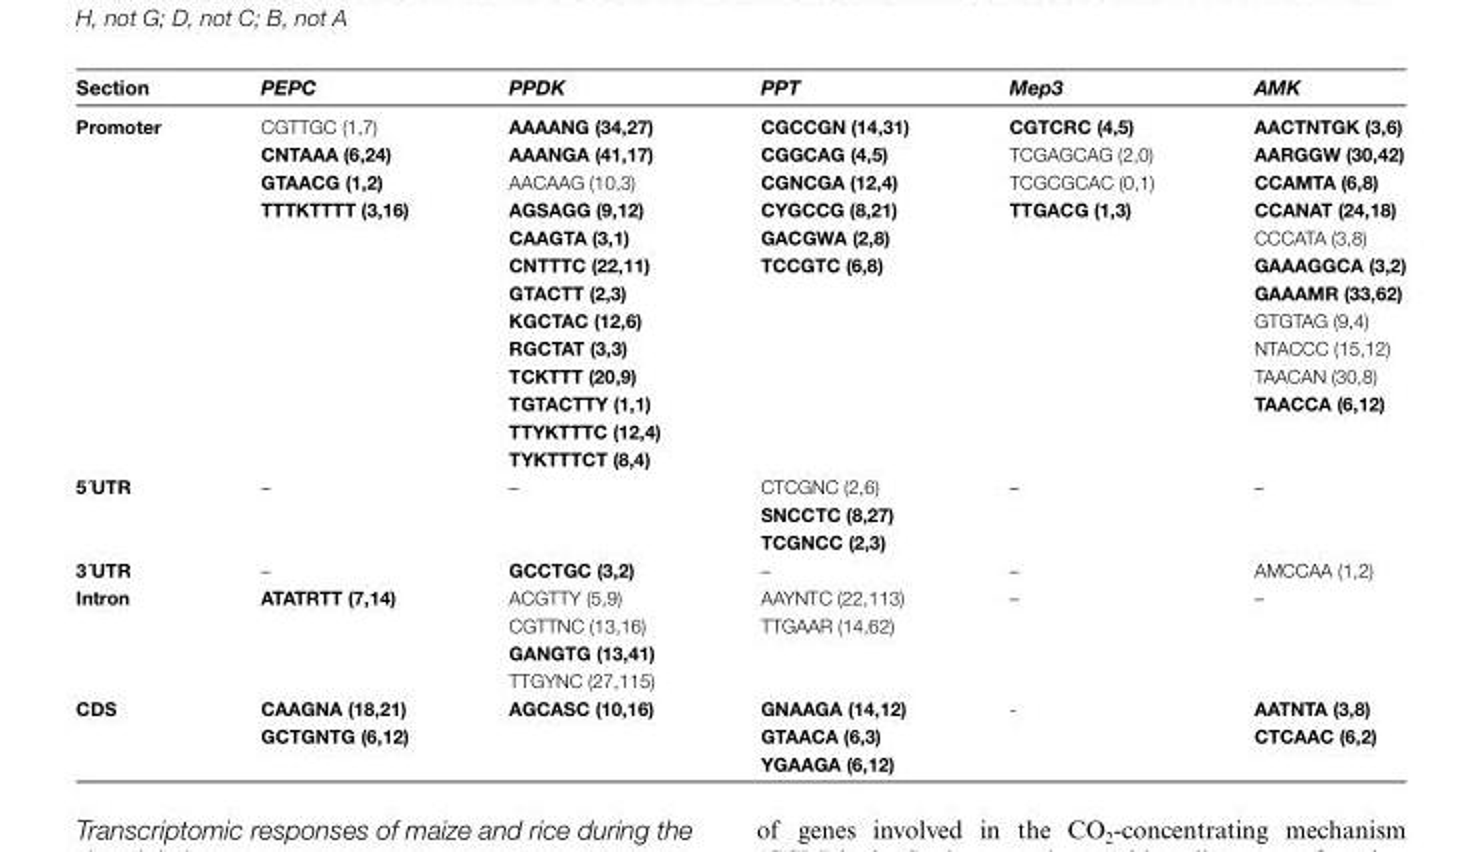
<table><thead><tr><td>Section</td><td>PEPC</td><td>PPDK</td><td>PPT</td><td>Mep3</td><td>AMK</td></tr></thead><tbody><tr><td rowspan="13">Promoter</td><td>CGTTGC (1,7)</td><td>AAAANG (34,27)</td><td>CGCCGN (14,31)</td><td>CGTCRC (4,5)</td><td>AACTNTGK (3,6)</td></tr><tr><td>CNTAAA (6,24)</td><td>AAANGA (41,17)</td><td>CGGCAG (4,5)</td><td>TCGAGCAG (2,0)</td><td>AARGGW (30,42)</td></tr><tr><td>GTAACG (1,2)</td><td>AACAAG (10,3)</td><td>CGNCGA (12,4)</td><td>TCGCGCAC (0,1)</td><td>CCAMTA (6,8)</td></tr><tr><td>TTTKTTTT (3,16)</td><td>AGSAGG (9,12)</td><td>CYGCCG (8,21)</td><td>TTGACG (1,3)</td><td>CCANAT (24,18)</td></tr><tr><td></td><td>CAAGTA (3,1)</td><td>GACGWA (2,8)</td><td></td><td>CCCATA (3,8)</td></tr><tr><td></td><td>CNTTTC (22,11)</td><td>TCCGTC (6,8)</td><td></td><td>GAAAGGCA (3,2)</td></tr><tr><td></td><td>GTACTT (2,3)</td><td></td><td></td><td>GAAAMR (33,62)</td></tr><tr><td></td><td>KGCTAC (12,6)</td><td></td><td></td><td>GTGTAG (9,4)</td></tr><tr><td></td><td>RGCTAT (3,3)</td><td></td><td></td><td>NTACCC (15,12)</td></tr><tr><td></td><td>TCKTTT (20,9)</td><td></td><td></td><td>TAACAN (30,8)</td></tr><tr><td></td><td>TGTACTTY (1,1)</td><td></td><td></td><td>TAACCA (6,12)</td></tr><tr><td></td><td>TTYKTTTC (12,4)</td><td></td><td></td><td></td></tr><tr><td></td><td>TYKTTTCT (8,4)</td><td></td><td></td><td></td></tr><tr><td rowspan="3">5´UTR</td><td>–</td><td>–</td><td>CTCGNC (2,6)</td><td>–</td><td>–</td></tr><tr><td></td><td></td><td>SNCCTC (8,27)</td><td></td><td></td></tr><tr><td></td><td></td><td>TCGNCC (2,3)</td><td></td><td></td></tr><tr><td>3´UTR</td><td>–</td><td>GCCTGC (3,2)</td><td>–</td><td>–</td><td>AMCCAA (1,2)</td></tr><tr><td rowspan="4">Intron</td><td>ATATRTT (7,14)</td><td>ACGTTY (5,9)</td><td>AAYNTC (22,113)</td><td>–</td><td>–</td></tr><tr><td></td><td>CGTTNC (13,16)</td><td>TTGAAR (14,62)</td><td></td><td></td></tr><tr><td></td><td>GANGTG (13,41)</td><td></td><td></td><td></td></tr><tr><td></td><td>TTGYNC (27,115)</td><td></td><td></td><td></td></tr><tr><td rowspan="3">CDS</td><td>CAAGNA (18,21)</td><td>AGCASC (10,16)</td><td>GNAAGA (14,12)</td><td>-</td><td>AATNTA (3,8)</td></tr><tr><td>GCTGNTG (6,12)</td><td></td><td>GTAACA (6,3)</td><td></td><td>CTCAAC (6,2)</td></tr><tr><td></td><td></td><td>YGAAGA (6,12)</td><td></td><td></td></tr></tbody></table>